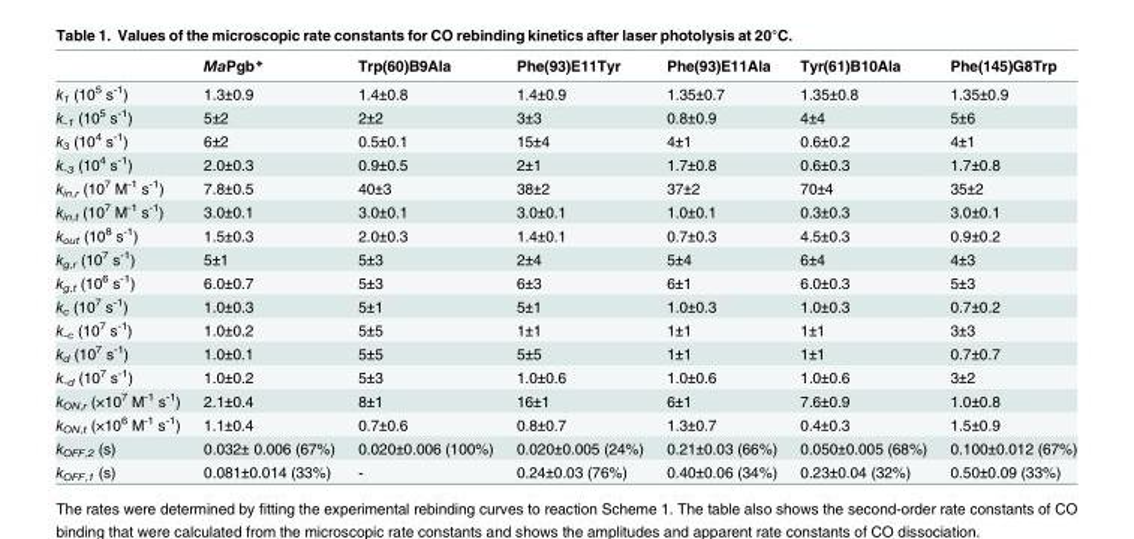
<table><thead><tr><td></td><td>MaPgb*</td><td>Trp(60)B9Ala</td><td>Phe(93)E11Tyr</td><td>Phe(93)E11Ala</td><td>Tyr(61)B10Ala</td><td>Phe(145)G8Trp</td></tr></thead><tbody><tr><td>k<sub>1</sub> (10<sup>5</sup> s<sup>-1</sup>)</td><td>1.3±0.9</td><td>1.4±0.8</td><td>1.4±0.9</td><td>1.35±0.7</td><td>1.35±0.8</td><td>1.35±0.9</td></tr><tr><td>k<sub>-1</sub> (10<sup>5</sup> s<sup>-1</sup>)</td><td>5±2</td><td>2±2</td><td>3±3</td><td>0.8±0.9</td><td>4±4</td><td>5±6</td></tr><tr><td>k<sub>3</sub> (10<sup>4</sup> s<sup>-1</sup>)</td><td>6±2</td><td>0.5±0.1</td><td>15±4</td><td>4±1</td><td>0.6±0.2</td><td>4±1</td></tr><tr><td>k<sub>-3</sub> (10<sup>4</sup> s<sup>-1</sup>)</td><td>2.0±0.3</td><td>0.9±0.5</td><td>2±1</td><td>1.7±0.8</td><td>0.6±0.3</td><td>1.7±0.8</td></tr><tr><td>k<sub>in,r</sub> (10<sup>7</sup> M<sup>-1</sup> s<sup>-1</sup>)</td><td>7.8±0.5</td><td>40±3</td><td>38±2</td><td>37±2</td><td>70±4</td><td>35±2</td></tr><tr><td>k<sub>in,t</sub> (10<sup>7</sup> M<sup>-1</sup> s<sup>-1</sup>)</td><td>3.0±0.1</td><td>3.0±0.1</td><td>3.0±0.1</td><td>1.0±0.1</td><td>0.3±0.3</td><td>3.0±0.1</td></tr><tr><td>k<sub>out</sub> (10<sup>8</sup> s<sup>-1</sup>)</td><td>1.5±0.3</td><td>2.0±0.3</td><td>1.4±0.1</td><td>0.7±0.3</td><td>4.5±0.3</td><td>0.9±0.2</td></tr><tr><td>k<sub>g,r</sub> (10<sup>7</sup> s<sup>-1</sup>)</td><td>5±1</td><td>5±3</td><td>2±4</td><td>5±4</td><td>6±4</td><td>4±3</td></tr><tr><td>k<sub>g,t</sub> (10<sup>6</sup> s<sup>-1</sup>)</td><td>6.0±0.7</td><td>5±3</td><td>6±3</td><td>6±1</td><td>6.0±0.3</td><td>5±3</td></tr><tr><td>k<sub>c</sub> (10<sup>7</sup> s<sup>-1</sup>)</td><td>1.0±0.3</td><td>5±1</td><td>5±1</td><td>1.0±0.3</td><td>1.0±0.3</td><td>0.7±0.2</td></tr><tr><td>k<sub>-c</sub> (10<sup>7</sup> s<sup>-1</sup>)</td><td>1.0±0.2</td><td>5±5</td><td>1±1</td><td>1±1</td><td>1±1</td><td>3±3</td></tr><tr><td>k<sub>d</sub> (10<sup>7</sup> s<sup>-1</sup>)</td><td>1.0±0.1</td><td>5±5</td><td>5±5</td><td>1±1</td><td>1±1</td><td>0.7±0.7</td></tr><tr><td>k<sub>-d</sub> (10<sup>7</sup> s<sup>-1</sup>)</td><td>1.0±0.2</td><td>5±3</td><td>1.0±0.6</td><td>1.0±0.6</td><td>1.0±0.6</td><td>3±2</td></tr><tr><td>k<sub>ON,r</sub> (×10<sup>7</sup> M<sup>-1</sup> s<sup>-1</sup>)</td><td>2.1±0.4</td><td>8±1</td><td>16±1</td><td>6±1</td><td>7.6±0.9</td><td>1.0±0.8</td></tr><tr><td>k<sub>ON,t</sub> (×10<sup>6</sup> M<sup>-1</sup> s<sup>-1</sup>)</td><td>1.1±0.4</td><td>0.7±0.6</td><td>0.8±0.7</td><td>1.3±0.7</td><td>0.4±0.3</td><td>1.5±0.9</td></tr><tr><td>k<sub>OFF,2</sub> (s)</td><td>0.032± 0.006 (67%)</td><td>0.020±0.006 (100%)</td><td>0.020±0.005 (24%)</td><td>0.21±0.03 (66%)</td><td>0.050±0.005 (68%)</td><td>0.100±0.012 (67%)</td></tr><tr><td>k<sub>OFF,1</sub> (s)</td><td>0.081±0.014 (33%)</td><td>-</td><td>0.24±0.03 (76%)</td><td>0.40±0.06 (34%)</td><td>0.23±0.04 (32%)</td><td>0.50±0.09 (33%)</td></tr></tbody></table>